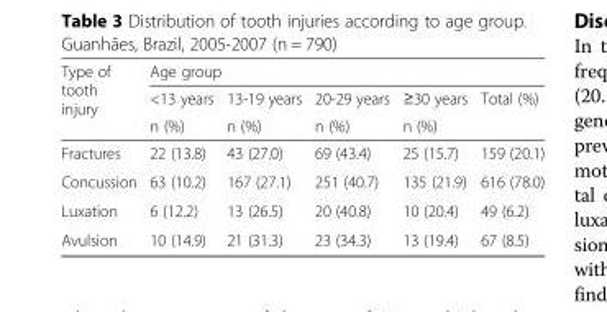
<table><thead><tr><td rowspan="3">Type of tooth injury</td><td colspan="5">Age group</td></tr><tr><td rowspan="2">&lt;13 years n (%)</td><td rowspan="2">13-19 years n (%)</td><td rowspan="2">20-29 years n (%)</td><td rowspan="2">≥30 years n (%)</td><td rowspan="2">Total (%)</td></tr><tr></tr></thead><tbody><tr><td>Fractures</td><td>22 (13.8)</td><td>43 (27.0)</td><td>69 (43.4)</td><td>25 (15.7)</td><td>159 (20.1)</td></tr><tr><td>Concussion</td><td>63 (10.2)</td><td>167 (27.1)</td><td>251 (40.7)</td><td>135 (21.9)</td><td>616 (78.0)</td></tr><tr><td>Luxation</td><td>6 (12.2)</td><td>13 (26.5)</td><td>20 (40.8)</td><td>10 (20.4)</td><td>49 (6.2)</td></tr><tr><td>Avulsion</td><td>10 (14.9)</td><td>21 (31.3)</td><td>23 (34.3)</td><td>13 (19.4)</td><td>67 (8.5)</td></tr></tbody></table>